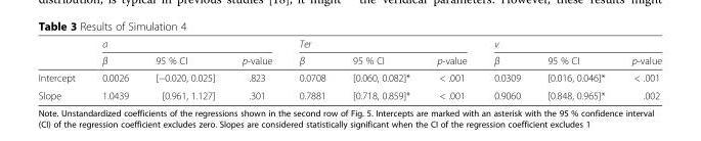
<table><thead><tr><td rowspan="2"></td><td colspan="3">a</td><td colspan="3">Ter</td><td colspan="3">v</td></tr><tr><td>β</td><td>95 % CI</td><td>p-value</td><td>β</td><td>95 % CI</td><td>p-value</td><td>β</td><td>95 % CI</td><td>p-value</td></tr></thead><tbody><tr><td>Intercept</td><td>0.0026</td><td>[−0.020, 0.025]</td><td>.823</td><td>0.0708</td><td>[0.060, 0.082]*</td><td>&lt; .001</td><td>0.0309</td><td>[0.016, 0.046]*</td><td>&lt; .001</td></tr><tr><td>Slope</td><td>1.0439</td><td>[0.961, 1.127]</td><td>.301</td><td>0.7881</td><td>[0.718, 0.859]*</td><td>&lt; .001</td><td>0.9060</td><td>[0.848, 0.965]*</td><td>.002</td></tr></tbody></table>